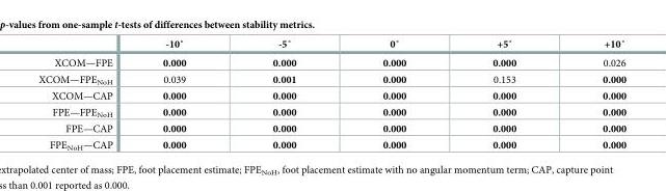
<table><thead><tr><td></td><td>-10˚</td><td>-5˚</td><td>0˚</td><td>+5˚</td><td>+10˚</td></tr></thead><tbody><tr><td>XCOM—FPE</td><td>0.000</td><td>0.000</td><td>0.000</td><td>0.000</td><td>0.026</td></tr><tr><td>XCOM—FPE<sub>NoH</sub></td><td>0.039</td><td>0.001</td><td>0.000</td><td>0.153</td><td>0.000</td></tr><tr><td>XCOM—CAP</td><td>0.000</td><td>0.000</td><td>0.000</td><td>0.000</td><td>0.000</td></tr><tr><td>FPE—FPE<sub>NoH</sub></td><td>0.000</td><td>0.000</td><td>0.000</td><td>0.000</td><td>0.000</td></tr><tr><td>FPE—CAP</td><td>0.000</td><td>0.000</td><td>0.000</td><td>0.000</td><td>0.000</td></tr><tr><td>FPE<sub>NoH</sub>—CAP</td><td>0.000</td><td>0.000</td><td>0.000</td><td>0.000</td><td>0.000</td></tr></tbody></table>